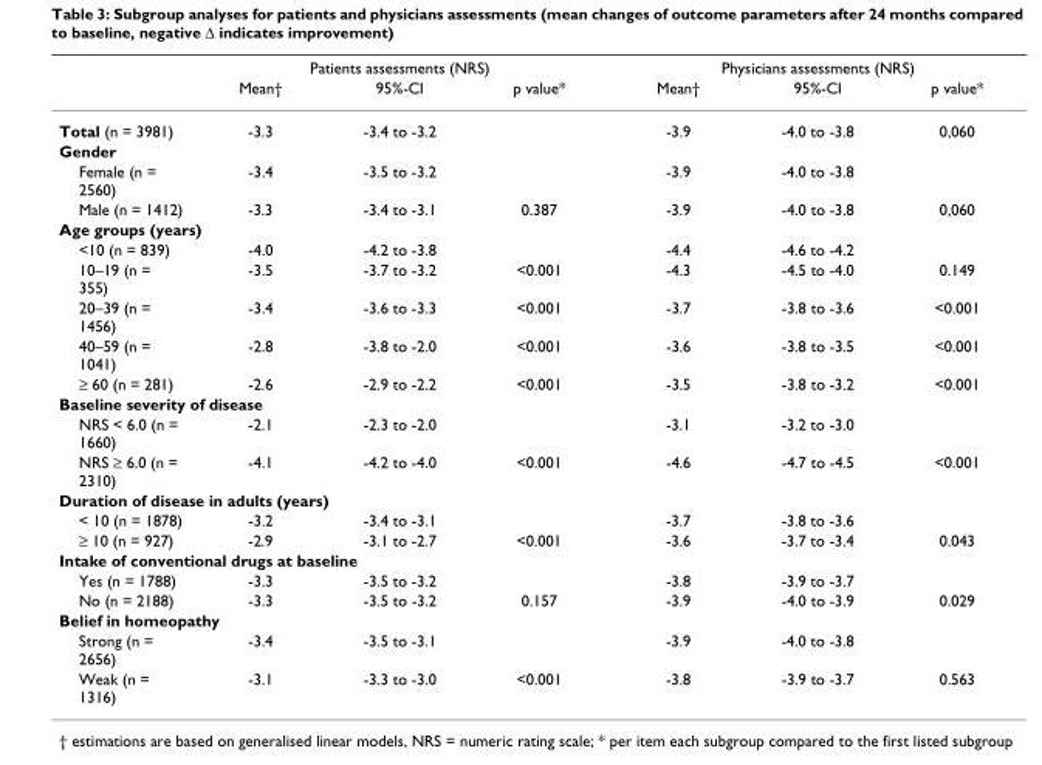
<table><thead><tr><td rowspan="2"></td><td colspan="3">Patients assessments (NRS)</td><td colspan="3">Physicians assessments (NRS)</td></tr><tr><td>Mean†</td><td>95%-CI</td><td>p value*</td><td>Mean†</td><td>95%-CI</td><td>p value*</td></tr></thead><tbody><tr><td>Total (n = 3981)</td><td>-3.3</td><td>-3.4 to -3.2</td><td></td><td>-3.9</td><td>-4.0 to -3.8</td><td>0,060</td></tr><tr><td colspan="7">Gender</td></tr><tr><td>Female (n = 2560)</td><td>-3.4</td><td>-3.5 to -3.2</td><td></td><td>-3.9</td><td>-4.0 to -3.8</td><td></td></tr><tr><td>Male (n = 1412)</td><td>-3.3</td><td>-3.4 to -3.1</td><td>0.387</td><td>-3.9</td><td>-4.0 to -3.8</td><td>0,060</td></tr><tr><td colspan="7">Age groups (years)</td></tr><tr><td>&lt;10 (n = 839)</td><td>-4.0</td><td>-4.2 to -3.8</td><td></td><td>-4.4</td><td>-4.6 to -4.2</td><td></td></tr><tr><td>10–19 (n = 355)</td><td>-3.5</td><td>-3.7 to -3.2</td><td>&lt;0.001</td><td>-4.3</td><td>-4.5 to -4.0</td><td>0.149</td></tr><tr><td>20–39 (n = 1456)</td><td>-3.4</td><td>-3.6 to -3.3</td><td>&lt;0.001</td><td>-3.7</td><td>-3.8 to -3.6</td><td>&lt;0.001</td></tr><tr><td>40–59 (n = 1041)</td><td>-2.8</td><td>-3.8 to -2.0</td><td>&lt;0.001</td><td>-3.6</td><td>-3.8 to -3.5</td><td>&lt;0.001</td></tr><tr><td>≥ 60 (n = 281)</td><td>-2.6</td><td>-2.9 to -2.2</td><td>&lt;0.001</td><td>-3.5</td><td>-3.8 to -3.2</td><td>&lt;0.001</td></tr><tr><td colspan="7">Baseline severity of disease</td></tr><tr><td>NRS &lt; 6.0 (n = 1660)</td><td>-2.1</td><td>-2.3 to -2.0</td><td></td><td>-3.1</td><td>-3.2 to -3.0</td><td></td></tr><tr><td>NRS ≥ 6.0 (n = 2310)</td><td>-4.1</td><td>-4.2 to -4.0</td><td>&lt;0.001</td><td>-4.6</td><td>-4.7 to -4.5</td><td>&lt;0.001</td></tr><tr><td colspan="7">Duration of disease in adults (years)</td></tr><tr><td>&lt; 10 (n = 1878)</td><td>-3.2</td><td>-3.4 to -3.1</td><td></td><td>-3.7</td><td>-3.8 to -3.6</td><td></td></tr><tr><td>≥ 10 (n = 927)</td><td>-2.9</td><td>-3.1 to -2.7</td><td>&lt;0.001</td><td>-3.6</td><td>-3.7 to -3.4</td><td>0.043</td></tr><tr><td colspan="7">Intake of conventional drugs at baseline</td></tr><tr><td>Yes (n = 1788)</td><td>-3.3</td><td>-3.5 to -3.2</td><td></td><td>-3.8</td><td>-3.9 to -3.7</td><td></td></tr><tr><td>No (n = 2188)</td><td>-3.3</td><td>-3.5 to -3.2</td><td>0.157</td><td>-3.9</td><td>-4.0 to -3.9</td><td>0.029</td></tr><tr><td colspan="7">Belief in homeopathy</td></tr><tr><td>Strong (n = 2656)</td><td>-3.4</td><td>-3.5 to -3.1</td><td></td><td>-3.9</td><td>-4.0 to -3.8</td><td></td></tr><tr><td>Weak (n = 1316)</td><td>-3.1</td><td>-3.3 to -3.0</td><td>&lt;0.001</td><td>-3.8</td><td>-3.9 to -3.7</td><td>0.563</td></tr></tbody></table>